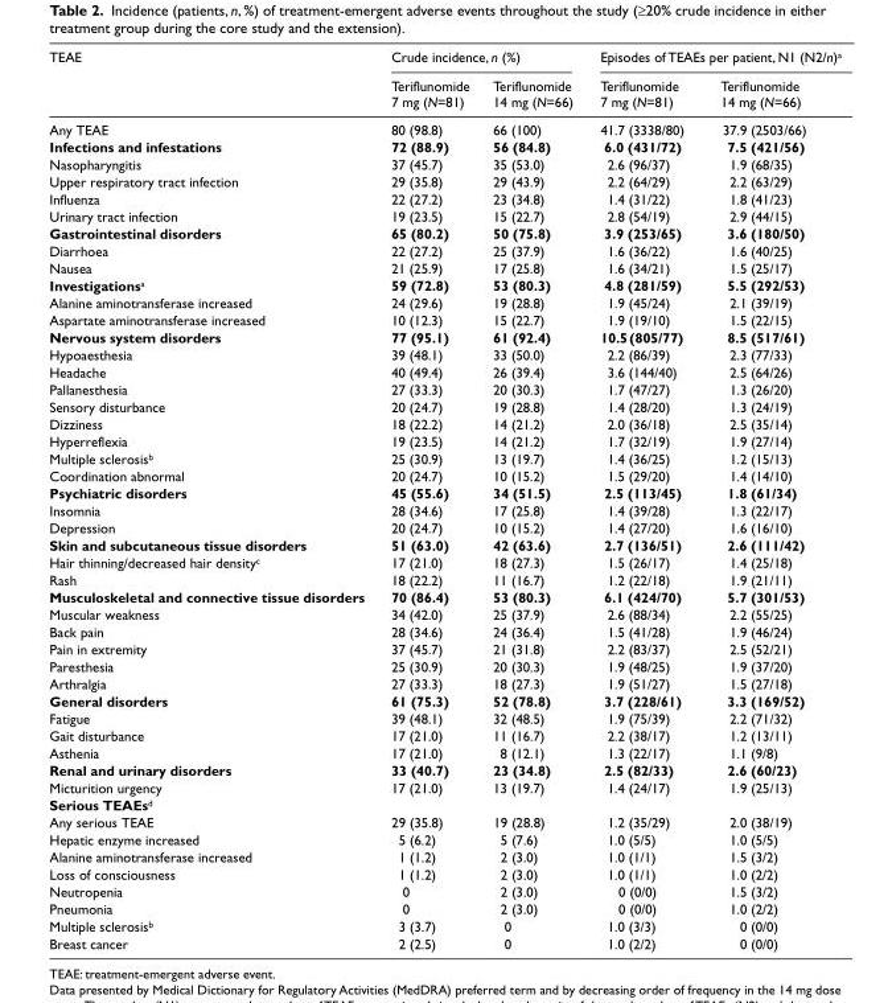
<table><thead><tr><td rowspan="2">TEAE</td><td colspan="2">Crude incidence, n (%)</td><td colspan="2">Episodes of TEAEs per patient, N1 (N2/n)<sup>a</sup></td></tr><tr><td>Teriflunomide 7 mg (N=81)</td><td>Teriflunomide 14 mg (N=66)</td><td>Teriflunomide 7 mg (N=81)</td><td>Teriflunomide 14 mg (N=66)</td></tr></thead><tbody><tr><td>Any TEAE</td><td>80 (98.8)</td><td>66 (100)</td><td>41.7 (3338/80)</td><td>37.9 (2503/66)</td></tr><tr><td>Infections and infestations</td><td>72 (88.9)</td><td>56 (84.8)</td><td>6.0 (431/72)</td><td>7.5 (421/56)</td></tr><tr><td>Nasopharyngitis</td><td>37 (45.7)</td><td>35 (53.0)</td><td>2.6 (96/37)</td><td>1.9 (68/35)</td></tr><tr><td>Upper respiratory tract infection</td><td>29 (35.8)</td><td>29 (43.9)</td><td>2.2 (64/29)</td><td>2.2 (63/29)</td></tr><tr><td>Influenza</td><td>22 (27.2)</td><td>23 (34.8)</td><td>1.4 (31/22)</td><td>1.8 (41/23)</td></tr><tr><td>Urinary tract infection</td><td>19 (23.5)</td><td>15 (22.7)</td><td>2.8 (54/19)</td><td>2.9 (44/15)</td></tr><tr><td>Gastrointestinal disorders</td><td>65 (80.2)</td><td>50 (75.8)</td><td>3.9 (253/65)</td><td>3.6 (180/50)</td></tr><tr><td>Diarrhoea</td><td>22 (27.2)</td><td>25 (37.9)</td><td>1.6 (36/22)</td><td>1.6 (40/25)</td></tr><tr><td>Nausea</td><td>21 (25.9)</td><td>17 (25.8)</td><td>1.6 (34/21)</td><td>1.5 (25/17)</td></tr><tr><td>Investigations<sup>a</sup></td><td>59 (72.8)</td><td>53 (80.3)</td><td>4.8 (281/59)</td><td>5.5 (292/53)</td></tr><tr><td>Alanine aminotransferase increased</td><td>24 (29.6)</td><td>19 (28.8)</td><td>1.9 (45/24)</td><td>2.1 (39/19)</td></tr><tr><td>Aspartate aminotransferase increased</td><td>10 (12.3)</td><td>15 (22.7)</td><td>1.9 (19/10)</td><td>1.5 (22/15)</td></tr><tr><td>Nervous system disorders</td><td>77 (95.1)</td><td>61 (92.4)</td><td>10.5 (805/77)</td><td>8.5 (517/61)</td></tr><tr><td>Hypoaesthesia</td><td>39 (48.1)</td><td>33 (50.0)</td><td>2.2 (86/39)</td><td>2.3 (77/33)</td></tr><tr><td>Headache</td><td>40 (49.4)</td><td>26 (39.4)</td><td>3.6 (144/40)</td><td>2.5 (64/26)</td></tr><tr><td>Pallanesthesia</td><td>27 (33.3)</td><td>20 (30.3)</td><td>1.7 (47/27)</td><td>1.3 (26/20)</td></tr><tr><td>Sensory disturbance</td><td>20 (24.7)</td><td>19 (28.8)</td><td>1.4 (28/20)</td><td>1.3 (24/19)</td></tr><tr><td>Dizziness</td><td>18 (22.2)</td><td>14 (21.2)</td><td>2.0 (36/18)</td><td>2.5 (35/14)</td></tr><tr><td>Hyperreflexia</td><td>19 (23.5)</td><td>14 (21.2)</td><td>1.7 (32/19)</td><td>1.9 (27/14)</td></tr><tr><td>Multiple sclerosis<sup>b</sup></td><td>25 (30.9)</td><td>13 (19.7)</td><td>1.4 (36/25)</td><td>1.2 (15/13)</td></tr><tr><td>Coordination abnormal</td><td>20 (24.7)</td><td>10 (15.2)</td><td>1.5 (29/20)</td><td>1.4 (14/10)</td></tr><tr><td>Psychiatric disorders</td><td>45 (55.6)</td><td>34 (51.5)</td><td>2.5 (113/45)</td><td>1.8 (61/34)</td></tr><tr><td>Insomnia</td><td>28 (34.6)</td><td>17 (25.8)</td><td>1.4 (39/28)</td><td>1.3 (22/17)</td></tr><tr><td>Depression</td><td>20 (24.7)</td><td>10 (15.2)</td><td>1.4 (27/20)</td><td>1.6 (16/10)</td></tr><tr><td>Skin and subcutaneous tissue disorders</td><td>51 (63.0)</td><td>42 (63.6)</td><td>2.7 (136/51)</td><td>2.6 (111/42)</td></tr><tr><td>Hair thinning/decreased hair density<sup>c</sup></td><td>17 (21.0)</td><td>18 (27.3)</td><td>1.5 (26/17)</td><td>1.4 (25/18)</td></tr><tr><td>Rash</td><td>18 (22.2)</td><td>11 (16.7)</td><td>1.2 (22/18)</td><td>1.9 (21/11)</td></tr><tr><td>Musculoskeletal and connective tissue disorders</td><td>70 (86.4)</td><td>53 (80.3)</td><td>6.1 (424/70)</td><td>5.7 (301/53)</td></tr><tr><td>Muscular weakness</td><td>34 (42.0)</td><td>25 (37.9)</td><td>2.6 (88/34)</td><td>2.2 (55/25)</td></tr><tr><td>Back pain</td><td>28 (34.6)</td><td>24 (36.4)</td><td>1.5 (41/28)</td><td>1.9 (46/24)</td></tr><tr><td>Pain in extremity</td><td>37 (45.7)</td><td>21 (31.8)</td><td>2.2 (83/37)</td><td>2.5 (52/21)</td></tr><tr><td>Paresthesia</td><td>25 (30.9)</td><td>20 (30.3)</td><td>1.9 (48/25)</td><td>1.9 (37/20)</td></tr><tr><td>Arthralgia</td><td>27 (33.3)</td><td>18 (27.3)</td><td>1.9 (51/27)</td><td>1.5 (27/18)</td></tr><tr><td>General disorders</td><td>61 (75.3)</td><td>52 (78.8)</td><td>3.7 (228/61)</td><td>3.3 (169/52)</td></tr><tr><td>Fatigue</td><td>39 (48.1)</td><td>32 (48.5)</td><td>1.9 (75/39)</td><td>2.2 (71/32)</td></tr><tr><td>Gait disturbance</td><td>17 (21.0)</td><td>11 (16.7)</td><td>2.2 (38/17)</td><td>1.2 (13/11)</td></tr><tr><td>Asthenia</td><td>17 (21.0)</td><td>8 (12.1)</td><td>1.3 (22/17)</td><td>1.1 (9/8)</td></tr><tr><td>Renal and urinary disorders</td><td>33 (40.7)</td><td>23 (34.8)</td><td>2.5 (82/33)</td><td>2.6 (60/23)</td></tr><tr><td>Micturition urgency</td><td>17 (21.0)</td><td>13 (19.7)</td><td>1.4 (24/17)</td><td>1.9 (25/13)</td></tr><tr><td colspan="5">Serious TEAEs<sup>d</sup></td></tr><tr><td>Any serious TEAE</td><td>29 (35.8)</td><td>19 (28.8)</td><td>1.2 (35/29)</td><td>2.0 (38/19)</td></tr><tr><td>Hepatic enzyme increased</td><td>5 (6.2)</td><td>5 (7.6)</td><td>1.0 (5/5)</td><td>1.0 (5/5)</td></tr><tr><td>Alanine aminotransferase increased</td><td>1 (1.2)</td><td>2 (3.0)</td><td>1.0 (1/1)</td><td>1.5 (3/2)</td></tr><tr><td>Loss of consciousness</td><td>1 (1.2)</td><td>2 (3.0)</td><td>1.0 (1/1)</td><td>1.0 (2/2)</td></tr><tr><td>Neutropenia</td><td>0</td><td>2 (3.0)</td><td>0 (0/0)</td><td>1.5 (3/2)</td></tr><tr><td>Pneumonia</td><td>0</td><td>2 (3.0)</td><td>0 (0/0)</td><td>1.0 (2/2)</td></tr><tr><td>Multiple sclerosis<sup>b</sup></td><td>3 (3.7)</td><td>0</td><td>1.0 (3/3)</td><td>0 (0/0)</td></tr><tr><td>Breast cancer</td><td>2 (2.5)</td><td>0</td><td>1.0 (2/2)</td><td>0 (0/0)</td></tr></tbody></table>